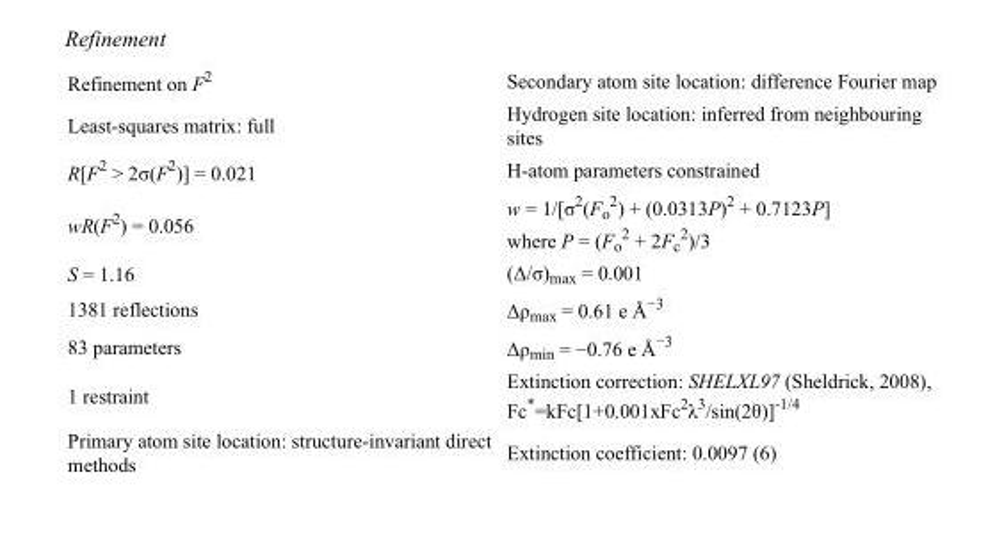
<table><tbody><tr><td>Refinement on F<sup>2</sup></td><td>Secondary atom site location: difference Fourier map</td></tr><tr><td>Least-squares matrix: full</td><td>Hydrogen site location: inferred from neighbouring sites</td></tr><tr><td>R[F<sup>2</sup> &gt; 2σ(F<sup>2</sup>)] = 0.021</td><td>H-atom parameters constrained</td></tr><tr><td>wR(F<sup>2</sup>) = 0.056</td><td>w = 1/[σ<sup>2</sup>(F<sub>o</sub> <sup>2</sup>) + (0.0313P)<sup>2</sup> + 0.7123P] where P = (F<sub>o</sub> <sup>2</sup> + 2F<sub>c</sub> <sup>2</sup>)/3</td></tr><tr><td>S = 1.16</td><td>(Δ/σ)<sub>max</sub> = 0.001</td></tr><tr><td>1381 reflections</td><td>Δρ<sub>max</sub> = 0.61 e Å<sup>−3</sup></td></tr><tr><td>83 parameters</td><td>Δρ<sub>min</sub> = −0.76 e Å<sup>−3</sup></td></tr><tr><td>1 restraint</td><td>Extinction correction: SHELXL97 (Sheldrick, 2008), Fc*=kFc[1+0.001xFc<sup>2</sup>λ<sup>3</sup>/sin(2θ)]<sup>-1/4</sup></td></tr><tr><td>Primary atom site location: structure-invariant direct methods</td><td>Extinction coefficient: 0.0097 (6)</td></tr></tbody></table>